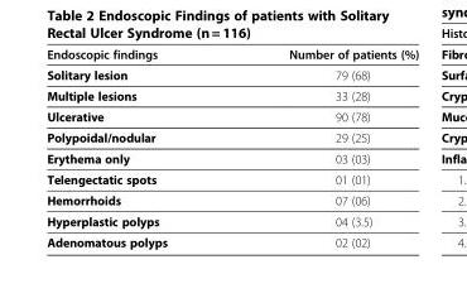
<table><thead><tr><td>Endoscopic findings</td><td>Number of patients (%)</td></tr></thead><tbody><tr><td>Solitary lesion</td><td>79 (68)</td></tr><tr><td>Multiple lesions</td><td>33 (28)</td></tr><tr><td>Ulcerative</td><td>90 (78)</td></tr><tr><td>Polypoidal/nodular</td><td>29 (25)</td></tr><tr><td>Erythema only</td><td>03 (03)</td></tr><tr><td>Telengectatic spots</td><td>01 (01)</td></tr><tr><td>Hemorrhoids</td><td>07 (06)</td></tr><tr><td>Hyperplastic polyps</td><td>04 (3.5)</td></tr><tr><td>Adenomatous polyps</td><td>02 (02)</td></tr></tbody></table>